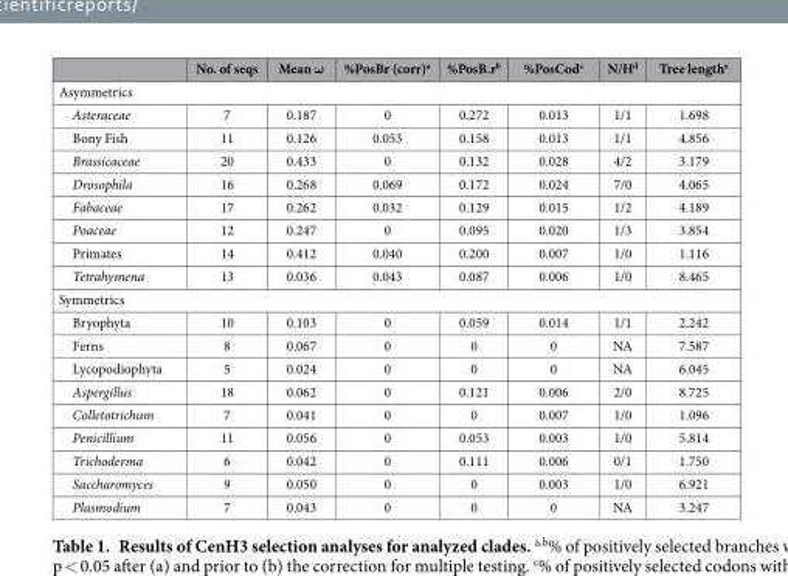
<table><thead><tr><td></td><td>No. of seqs</td><td>Mean ω</td><td>%PosBr (corr)<sup>a</sup></td><td>%PosB.r<sup>b</sup></td><td>%PosCod<sup>c</sup></td><td>N/H<sup>d</sup></td><td>Tree length<sup>e</sup></td></tr></thead><tbody><tr><td colspan="8">Asymmetrics</td></tr><tr><td>Asteraceae</td><td>7</td><td>0.187</td><td>0</td><td>0.272</td><td>0.013</td><td>1/1</td><td>1.698</td></tr><tr><td>Bony Fish</td><td>11</td><td>0.126</td><td>0.053</td><td>0.158</td><td>0.013</td><td>1/1</td><td>4.856</td></tr><tr><td>Brassicaceae</td><td>20</td><td>0.433</td><td>0</td><td>0.132</td><td>0.028</td><td>4/2</td><td>3.179</td></tr><tr><td>Drosophila</td><td>16</td><td>0.268</td><td>0.069</td><td>0.172</td><td>0.024</td><td>7/0</td><td>4.065</td></tr><tr><td>Fabaceae</td><td>17</td><td>0.262</td><td>0.032</td><td>0.129</td><td>0.015</td><td>1/2</td><td>4.189</td></tr><tr><td>Poaceae</td><td>12</td><td>0.247</td><td>0</td><td>0.095</td><td>0.020</td><td>1/3</td><td>3.854</td></tr><tr><td>Primates</td><td>14</td><td>0.412</td><td>0.040</td><td>0.200</td><td>0.007</td><td>1/0</td><td>1.116</td></tr><tr><td>Tetrahymena</td><td>13</td><td>0.036</td><td>0.043</td><td>0.087</td><td>0.006</td><td>1/0</td><td>8.465</td></tr><tr><td colspan="8">Symmetrics</td></tr><tr><td>Bryophyta</td><td>10</td><td>0.103</td><td>0</td><td>0.059</td><td>0.014</td><td>1/1</td><td>2.242</td></tr><tr><td>Ferns</td><td>8</td><td>0.067</td><td>0</td><td>0</td><td>0</td><td>NA</td><td>7.587</td></tr><tr><td>Lycopodiophyta</td><td>5</td><td>0.024</td><td>0</td><td>0</td><td>0</td><td>NA</td><td>6.045</td></tr><tr><td>Aspergillus</td><td>18</td><td>0.062</td><td>0</td><td>0.121</td><td>0.006</td><td>2/0</td><td>8.725</td></tr><tr><td>Colletotrichum</td><td>7</td><td>0.041</td><td>0</td><td>0</td><td>0.007</td><td>1/0</td><td>1.096</td></tr><tr><td>Penicillium</td><td>11</td><td>0.056</td><td>0</td><td>0.053</td><td>0.003</td><td>1/0</td><td>5.814</td></tr><tr><td>Trichoderma</td><td>6</td><td>0.042</td><td>0</td><td>0.111</td><td>0.006</td><td>0/1</td><td>1.750</td></tr><tr><td>Saccharomyces</td><td>9</td><td>0.050</td><td>0</td><td>0</td><td>0.003</td><td>1/0</td><td>6.921</td></tr><tr><td>Plasmodium</td><td>7</td><td>0.043</td><td>0</td><td>0</td><td>0</td><td>NA</td><td>3.247</td></tr></tbody></table>